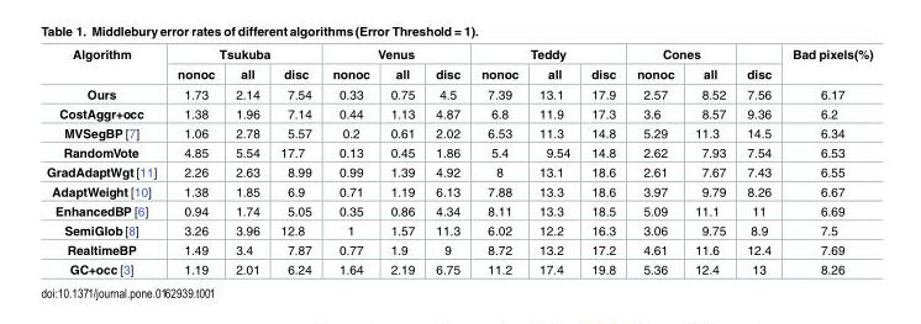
<table><thead><tr><td rowspan="2">Algorithm</td><td colspan="3">Tsukuba</td><td colspan="3">Venus</td><td colspan="3">Teddy</td><td colspan="2">Cones</td><td rowspan="2">disc</td><td rowspan="2">Bad pixels(%)</td></tr><tr><td>nonoc</td><td>all</td><td>disc</td><td>nonoc</td><td>all</td><td>disc</td><td>nonoc</td><td>all</td><td>disc</td><td>nonoc</td><td>all</td></tr></thead><tbody><tr><td>Ours</td><td>1.73</td><td>2.14</td><td>7.54</td><td>0.33</td><td>0.75</td><td>4.5</td><td>7.39</td><td>13.1</td><td>17.9</td><td>2.57</td><td>8.52</td><td>7.56</td><td>6.17</td></tr><tr><td>CostAggr+occ</td><td>1.38</td><td>1.96</td><td>7.14</td><td>0.44</td><td>1.13</td><td>4.87</td><td>6.8</td><td>11.9</td><td>17.3</td><td>3.6</td><td>8.57</td><td>9.36</td><td>6.2</td></tr><tr><td>MVSegBP [7]</td><td>1.06</td><td>2.78</td><td>5.57</td><td>0.2</td><td>0.61</td><td>2.02</td><td>6.53</td><td>11.3</td><td>14.8</td><td>5.29</td><td>11.3</td><td>14.5</td><td>6.34</td></tr><tr><td>RandomVote</td><td>4.85</td><td>5.54</td><td>17.7</td><td>0.13</td><td>0.45</td><td>1.86</td><td>5.4</td><td>9.54</td><td>14.8</td><td>2.62</td><td>7.93</td><td>7.54</td><td>6.53</td></tr><tr><td>GradAdaptWgt [11]</td><td>2.26</td><td>2.63</td><td>8.99</td><td>0.99</td><td>1.39</td><td>4.92</td><td>8</td><td>13.1</td><td>18.6</td><td>2.61</td><td>7.67</td><td>7.43</td><td>6.55</td></tr><tr><td>AdaptWeight [10]</td><td>1.38</td><td>1.85</td><td>6.9</td><td>0.71</td><td>1.19</td><td>6.13</td><td>7.88</td><td>13.3</td><td>18.6</td><td>3.97</td><td>9.79</td><td>8.26</td><td>6.67</td></tr><tr><td>EnhancedBP [6]</td><td>0.94</td><td>1.74</td><td>5.05</td><td>0.35</td><td>0.86</td><td>4.34</td><td>8.11</td><td>13.3</td><td>18.5</td><td>5.09</td><td>11.1</td><td>11</td><td>6.69</td></tr><tr><td>SemiGlob [8]</td><td>3.26</td><td>3.96</td><td>12.8</td><td>1</td><td>1.57</td><td>11.3</td><td>6.02</td><td>12.2</td><td>16.3</td><td>3.06</td><td>9.75</td><td>8.9</td><td>7.5</td></tr><tr><td>RealtimeBP</td><td>1.49</td><td>3.4</td><td>7.87</td><td>0.77</td><td>1.9</td><td>9</td><td>8.72</td><td>13.2</td><td>17.2</td><td>4.61</td><td>11.6</td><td>12.4</td><td>7.69</td></tr><tr><td>GC+occ [3]</td><td>1.19</td><td>2.01</td><td>6.24</td><td>1.64</td><td>2.19</td><td>6.75</td><td>11.2</td><td>17.4</td><td>19.8</td><td>5.36</td><td>12.4</td><td>13</td><td>8.26</td></tr></tbody></table>